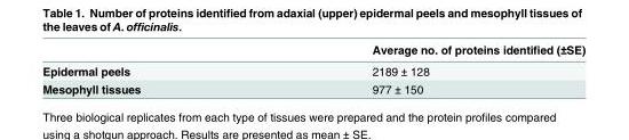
<table><thead><tr><td></td><td>Average no. of proteins identified (±SE)</td></tr></thead><tbody><tr><td>Epidermal peels</td><td>2189 ± 128</td></tr><tr><td>Mesophyll tissues</td><td>977 ± 150</td></tr></tbody></table>